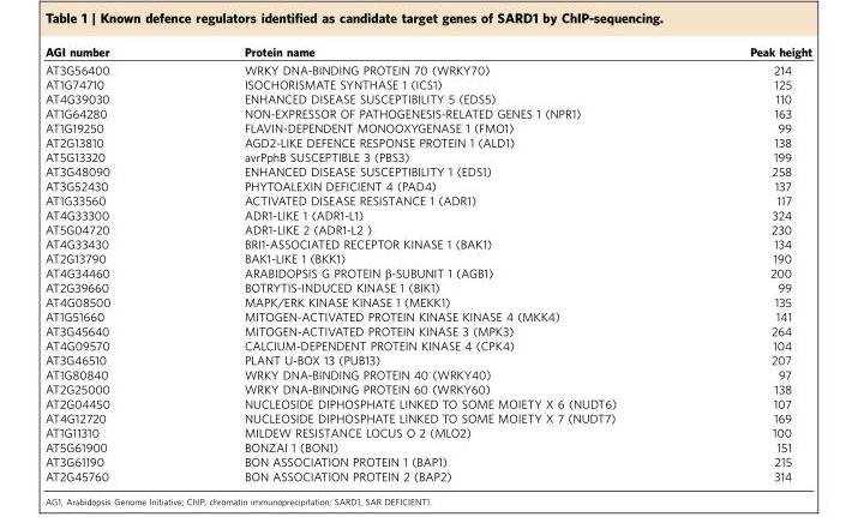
<table><thead><tr><td>AGI number</td><td>Protein name</td><td>Peak height</td></tr></thead><tbody><tr><td>AT3G56400</td><td>WRKY DNA-BINDING PROTEIN 70 (WRKY70)</td><td>214</td></tr><tr><td>AT1G74710</td><td>ISOCHORISMATE SYNTHASE 1 (ICS1)</td><td>125</td></tr><tr><td>AT4G39030</td><td>ENHANCED DISEASE SUSCEPTIBILITY 5 (EDS5)</td><td>110</td></tr><tr><td>AT1G64280</td><td>NON-EXPRESSOR OF PATHOGENESIS-RELATED GENES 1 (NPR1)</td><td>163</td></tr><tr><td>AT1G19250</td><td>FLAVIN-DEPENDENT MONOOXYGENASE 1 (FMO1)</td><td>99</td></tr><tr><td>AT2G13810</td><td>AGD2-LIKE DEFENCE RESPONSE PROTEIN 1 (ALD1)</td><td>138</td></tr><tr><td>AT5G13320</td><td>avrPphB SUSCEPTIBLE 3 (PBS3)</td><td>199</td></tr><tr><td>AT3G48090</td><td>ENHANCED DISEASE SUSCEPTIBILITY 1 (EDS1)</td><td>258</td></tr><tr><td>AT3G52430</td><td>PHYTOALEXIN DEFICIENT 4 (PAD4)</td><td>137</td></tr><tr><td>AT1G33560</td><td>ACTIVATED DISEASE RESISTANCE 1 (ADR1)</td><td>117</td></tr><tr><td>AT4G33300</td><td>ADR1-LIKE 1 (ADR1-L1)</td><td>324</td></tr><tr><td>AT5G04720</td><td>ADR1-LIKE 2 (ADR1-L2 )</td><td>230</td></tr><tr><td>AT4G33430</td><td>BRI1-ASSOCIATED RECEPTOR KINASE 1 (BAK1)</td><td>134</td></tr><tr><td>AT2G13790</td><td>BAK1-LIKE 1 (BKK1)</td><td>190</td></tr><tr><td>AT4G34460</td><td>ARABIDOPSIS G PROTEIN β-SUBUNIT 1 (AGB1)</td><td>200</td></tr><tr><td>AT2G39660</td><td>BOTRYTIS-INDUCED KINASE 1 (BIK1)</td><td>99</td></tr><tr><td>AT4G08500</td><td>MAPK/ERK KINASE KINASE 1 (MEKK1)</td><td>135</td></tr><tr><td>AT1G51660</td><td>MITOGEN-ACTIVATED PROTEIN KINASE KINASE 4 (MKK4)</td><td>141</td></tr><tr><td>AT3G45640</td><td>MITOGEN-ACTIVATED PROTEIN KINASE 3 (MPK3)</td><td>264</td></tr><tr><td>AT4G09570</td><td>CALCIUM-DEPENDENT PROTEIN KINASE 4 (CPK4)</td><td>104</td></tr><tr><td>AT3G46510</td><td>PLANT U-BOX 13 (PUB13)</td><td>207</td></tr><tr><td>AT1G80840</td><td>WRKY DNA-BINDING PROTEIN 40 (WRKY40)</td><td>97</td></tr><tr><td>AT2G25000</td><td>WRKY DNA-BINDING PROTEIN 60 (WRKY60)</td><td>138</td></tr><tr><td>AT2G04450</td><td>NUCLEOSIDE DIPHOSPHATE LINKED TO SOME MOIETY X 6 (NUDT6)</td><td>107</td></tr><tr><td>AT4G12720</td><td>NUCLEOSIDE DIPHOSPHATE LINKED TO SOME MOIETY X 7 (NUDT7)</td><td>169</td></tr><tr><td>AT1G11310</td><td>MILDEW RESISTANCE LOCUS O 2 (MLO2)</td><td>100</td></tr><tr><td>AT5G61900</td><td>BONZAI 1 (BON1)</td><td>151</td></tr><tr><td>AT3G61190</td><td>BON ASSOCIATION PROTEIN 1 (BAP1)</td><td>215</td></tr><tr><td>AT2G45760</td><td>BON ASSOCIATION PROTEIN 2 (BAP2)</td><td>314</td></tr></tbody></table>